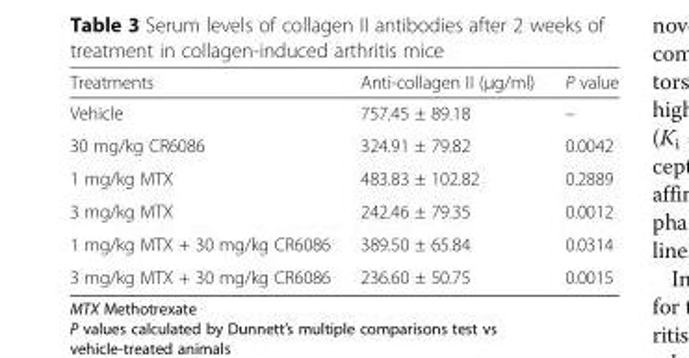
<table><thead><tr><td>Treatments</td><td>Anti-collagen II (μg/ml)</td><td>P value</td></tr></thead><tbody><tr><td>Vehicle</td><td>757.45 ± 89.18</td><td>–</td></tr><tr><td>30 mg/kg CR6086</td><td>324.91 ± 79.82</td><td>0.0042</td></tr><tr><td>1 mg/kg MTX</td><td>483.83 ± 102.82</td><td>0.2889</td></tr><tr><td>3 mg/kg MTX</td><td>242.46 ± 79.35</td><td>0.0012</td></tr><tr><td>1 mg/kg MTX + 30 mg/kg CR6086</td><td>389.50 ± 65.84</td><td>0.0314</td></tr><tr><td>3 mg/kg MTX + 30 mg/kg CR6086</td><td>236.60 ± 50.75</td><td>0.0015</td></tr></tbody></table>